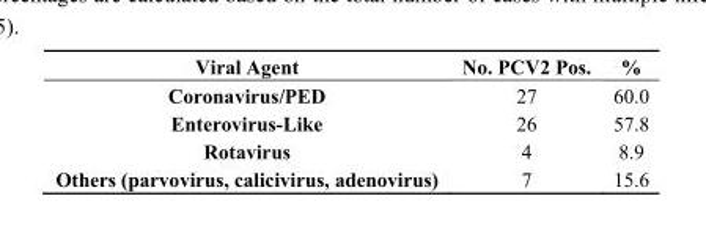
<table><thead><tr><td>Viral Agent</td><td>No. PCV2 Pos.</td><td>%</td></tr></thead><tbody><tr><td>Coronavirus/PED</td><td>27</td><td>60.0</td></tr><tr><td>Enterovirus-Like</td><td>26</td><td>57.8</td></tr><tr><td>Rotavirus</td><td>4</td><td>8.9</td></tr><tr><td>Others (parvovirus, calicivirus, adenovirus)</td><td>7</td><td>15.6</td></tr></tbody></table>